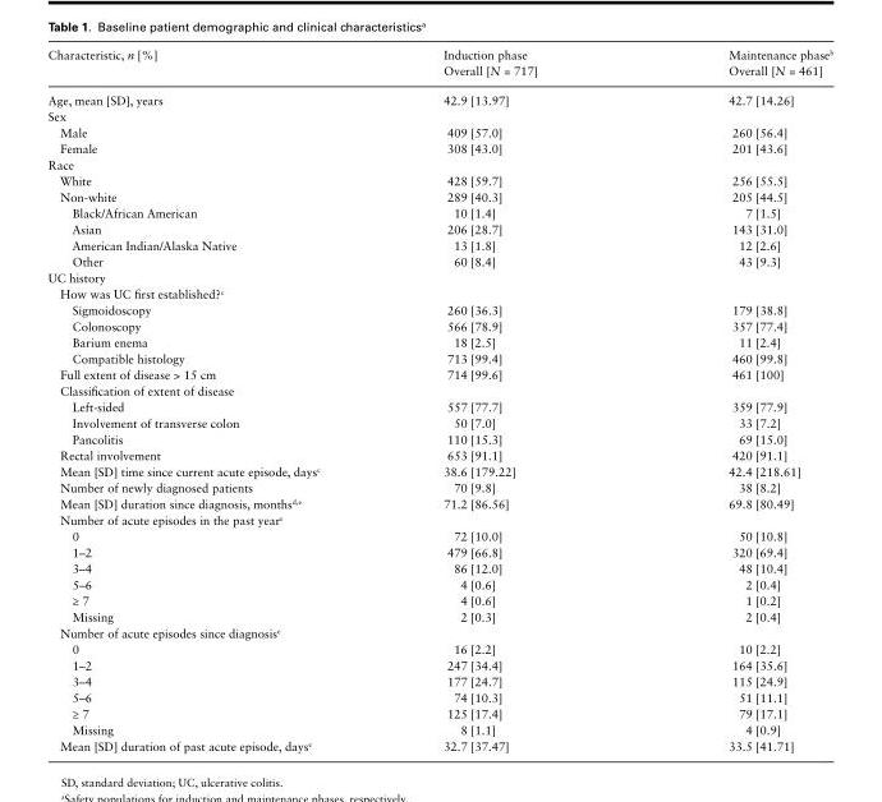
<table><thead><tr><td>Characteristic, n [%]</td><td>Induction phase Overall [N = 717]</td><td>Maintenance phase<sup>b</sup> Overall [N = 461]</td></tr></thead><tbody><tr><td>Age, mean [SD], years</td><td>42.9 [13.97]</td><td>42.7 [14.26]</td></tr><tr><td colspan="3">Sex</td></tr><tr><td>Male</td><td>409 [57.0]</td><td>260 [56.4]</td></tr><tr><td>Female</td><td>308 [43.0]</td><td>201 [43.6]</td></tr><tr><td colspan="3">Race</td></tr><tr><td>White</td><td>428 [59.7]</td><td>256 [55.5]</td></tr><tr><td>Non-white</td><td>289 [40.3]</td><td>205 [44.5]</td></tr><tr><td>Black/African American</td><td>10 [1.4]</td><td>7 [1.5]</td></tr><tr><td>Asian</td><td>206 [28.7]</td><td>143 [31.0]</td></tr><tr><td>American Indian/Alaska Native</td><td>13 [1.8]</td><td>12 [2.6]</td></tr><tr><td>Other</td><td>60 [8.4]</td><td>43 [9.3]</td></tr><tr><td colspan="3">UC history</td></tr><tr><td colspan="3">How was UC first established?<sup>c</sup></td></tr><tr><td>Sigmoidoscopy</td><td>260 [36.3]</td><td>179 [38.8]</td></tr><tr><td>Colonoscopy</td><td>566 [78.9]</td><td>357 [77.4]</td></tr><tr><td>Barium enema</td><td>18 [2.5]</td><td>11 [2.4]</td></tr><tr><td>Compatible histology</td><td>713 [99.4]</td><td>460 [99.8]</td></tr><tr><td>Full extent of disease &gt; 15 cm</td><td>714 [99.6]</td><td>461 [100]</td></tr><tr><td colspan="3">Classification of extent of disease</td></tr><tr><td>Left-sided</td><td>557 [77.7]</td><td>359 [77.9]</td></tr><tr><td>Involvement of transverse colon</td><td>50 [7.0]</td><td>33 [7.2]</td></tr><tr><td>Pancolitis</td><td>110 [15.3]</td><td>69 [15.0]</td></tr><tr><td>Rectal involvement</td><td>653 [91.1]</td><td>420 [91.1]</td></tr><tr><td>Mean [SD] time since current acute episode, days<sup>c</sup></td><td>38.6 [179.22]</td><td>42.4 [218.61]</td></tr><tr><td>Number of newly diagnosed patients</td><td>70 [9.8]</td><td>38 [8.2]</td></tr><tr><td>Mean [SD] duration since diagnosis, months<sup>d,e</sup></td><td>71.2 [86.56]</td><td>69.8 [80.49]</td></tr><tr><td colspan="3">Number of acute episodes in the past year<sup>e</sup></td></tr><tr><td>0</td><td>72 [10.0]</td><td>50 [10.8]</td></tr><tr><td>1–2</td><td>479 [66.8]</td><td>320 [69.4]</td></tr><tr><td>3–4</td><td>86 [12.0]</td><td>48 [10.4]</td></tr><tr><td>5–6</td><td>4 [0.6]</td><td>2 [0.4]</td></tr><tr><td>≥ 7</td><td>4 [0.6]</td><td>1 [0.2]</td></tr><tr><td>Missing</td><td>2 [0.3]</td><td>2 [0.4]</td></tr><tr><td colspan="3">Number of acute episodes since diagnosis<sup>e</sup></td></tr><tr><td>0</td><td>16 [2.2]</td><td>10 [2.2]</td></tr><tr><td>1–2</td><td>247 [34.4]</td><td>164 [35.6]</td></tr><tr><td>3–4</td><td>177 [24.7]</td><td>115 [24.9]</td></tr><tr><td>5–6</td><td>74 [10.3]</td><td>51 [11.1]</td></tr><tr><td>≥ 7</td><td>125 [17.4]</td><td>79 [17.1]</td></tr><tr><td>Missing</td><td>8 [1.1]</td><td>4 [0.9]</td></tr><tr><td>Mean [SD] duration of past acute episode, days<sup>e</sup></td><td>32.7 [37.47]</td><td>33.5 [41.71]</td></tr></tbody></table>